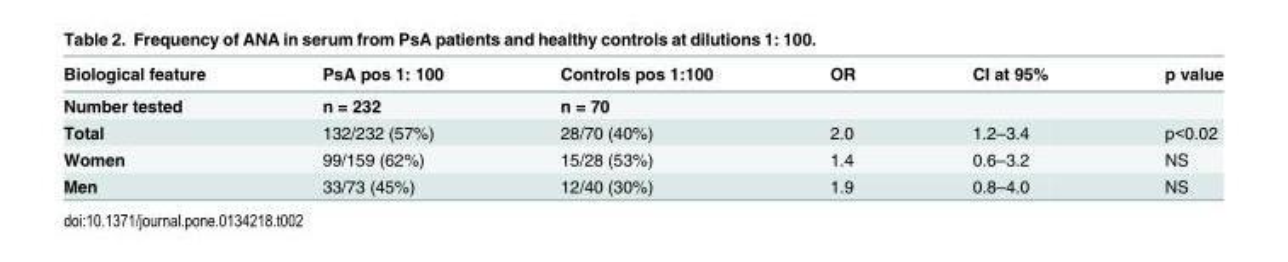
<table><thead><tr><td>Biological feature</td><td>PsA pos 1: 100</td><td>Controls pos 1:100</td><td>OR</td><td>CI at 95%</td><td>p value</td></tr></thead><tbody><tr><td>Number tested</td><td>n = 232</td><td>n = 70</td><td></td><td></td><td></td></tr><tr><td>Total</td><td>132/232 (57%)</td><td>28/70 (40%)</td><td>2.0</td><td>1.2–3.4</td><td>p&lt;0.02</td></tr><tr><td>Women</td><td>99/159 (62%)</td><td>15/28 (53%)</td><td>1.4</td><td>0.6–3.2</td><td>NS</td></tr><tr><td>Men</td><td>33/73 (45%)</td><td>12/40 (30%)</td><td>1.9</td><td>0.8–4.0</td><td>NS</td></tr></tbody></table>